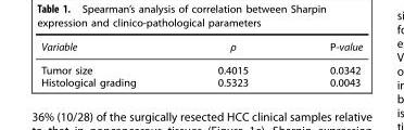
<table><thead><tr><td>Variable</td><td>ρ</td><td>P-value</td></tr></thead><tbody><tr><td>Tumor size</td><td>0.4015</td><td>0.0342</td></tr><tr><td>Histological grading</td><td>0.5323</td><td>0.0043</td></tr></tbody></table>